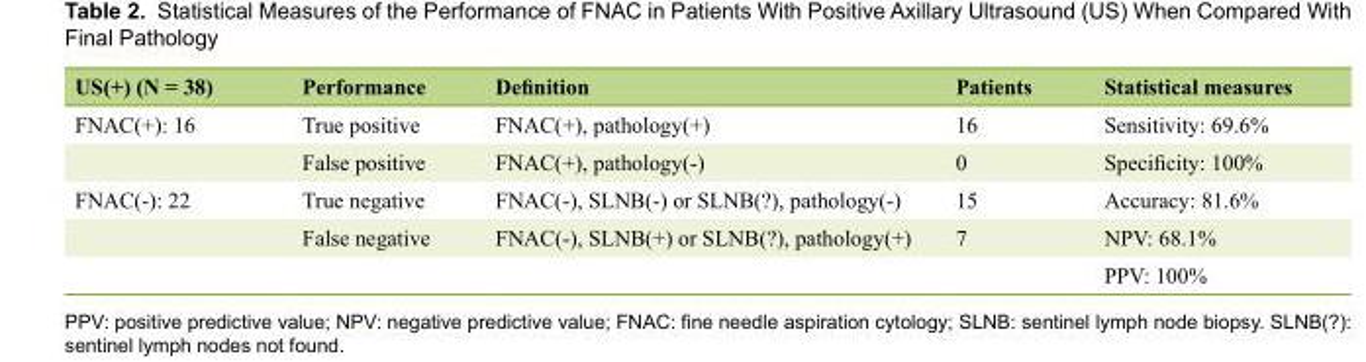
<table><thead><tr><td>US(+) (N = 38)</td><td>Performance</td><td>Definition</td><td>Patients</td><td>Statistical measures</td></tr></thead><tbody><tr><td rowspan="2">FNAC(+): 16</td><td>True positive</td><td>FNAC(+), pathology(+)</td><td>16</td><td>Sensitivity: 69.6%</td></tr><tr><td>False positive</td><td>FNAC(+), pathology(-)</td><td>0</td><td>Specificity: 100%</td></tr><tr><td rowspan="3">FNAC(-): 22</td><td>True negative</td><td>FNAC(-), SLNB(-) or SLNB(?), pathology(-)</td><td>15</td><td>Accuracy: 81.6%</td></tr><tr><td>False negative</td><td>FNAC(-), SLNB(+) or SLNB(?), pathology(+)</td><td>7</td><td>NPV: 68.1%</td></tr><tr><td></td><td></td><td></td><td>PPV: 100%</td></tr></tbody></table>